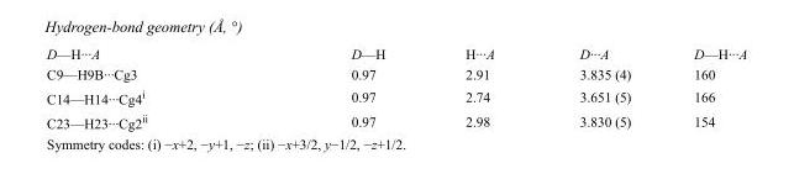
<table><tbody><tr><td>D—H···A</td><td>D—H</td><td>H···A</td><td>D···A</td><td>D—H···A</td></tr><tr><td>C9—H9B···Cg3</td><td>0.97</td><td>2.91</td><td>3.835 (4)</td><td>160</td></tr><tr><td>C14—H14···Cg4<sup>i</sup></td><td>0.97</td><td>2.74</td><td>3.651 (5)</td><td>166</td></tr><tr><td>C23—H23···Cg2<sup>ii</sup></td><td>0.97</td><td>2.98</td><td>3.830 (5)</td><td>154</td></tr></tbody></table>